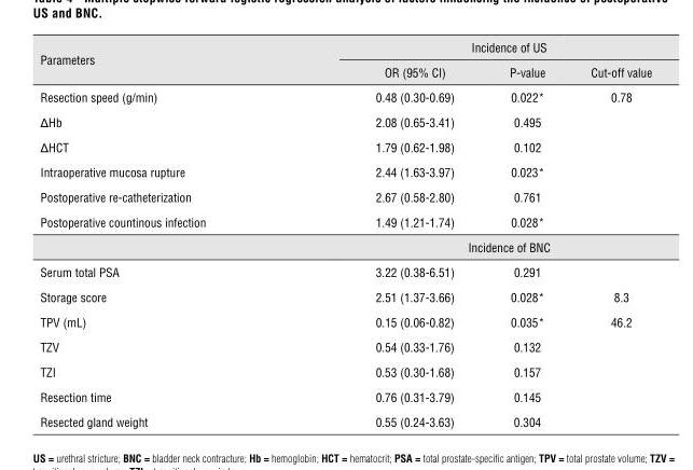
<table><thead><tr><td rowspan="2">Parameters</td><td colspan="3">Incidence of US</td></tr><tr><td>OR (95% CI)</td><td>P-value</td><td>Cut-off value</td></tr></thead><tbody><tr><td>Resection speed (g/min)</td><td>0.48 (0.30-0.69)</td><td>0.022*</td><td>0.78</td></tr><tr><td>ΔHb</td><td>2.08 (0.65-3.41)</td><td>0.495</td><td></td></tr><tr><td>ΔHCT</td><td>1.79 (0.62-1.98)</td><td>0.102</td><td></td></tr><tr><td>Intraoperative mucosa rupture</td><td>2.44 (1.63-3.97)</td><td>0.023*</td><td></td></tr><tr><td>Postoperative re-catheterization</td><td>2.67 (0.58-2.80)</td><td>0.761</td><td></td></tr><tr><td rowspan="2">Postoperative countinous infection</td><td>1.49 (1.21-1.74)</td><td>0.028*</td><td></td></tr><tr><td></td><td>Incidence of BNC</td><td></td></tr><tr><td>Serum total PSA</td><td>3.22 (0.38-6.51)</td><td>0.291</td><td></td></tr><tr><td>Storage score</td><td>2.51 (1.37-3.66)</td><td>0.028*</td><td>8.3</td></tr><tr><td>TPV (mL)</td><td>0.15 (0.06-0.82)</td><td>0.035*</td><td>46.2</td></tr><tr><td>TZV</td><td>0.54 (0.33-1.76)</td><td>0.132</td><td></td></tr><tr><td>TZI</td><td>0.53 (0.30-1.68)</td><td>0.157</td><td></td></tr><tr><td>Resection time</td><td>0.76 (0.31-3.79)</td><td>0.145</td><td></td></tr><tr><td>Resected gland weight</td><td>0.55 (0.24-3.63)</td><td>0.304</td><td></td></tr></tbody></table>